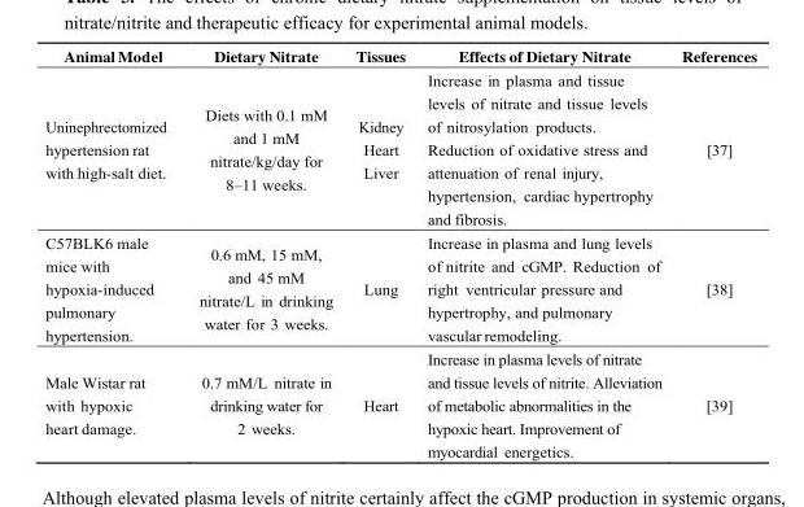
<table><thead><tr><td>Animal Model</td><td>Dietary Nitrate</td><td>Tissues</td><td>Effects of Dietary Nitrate</td><td>References</td></tr></thead><tbody><tr><td>Uninephrectomized hypertension rat with high-salt diet.</td><td>Diets with 0.1 mM and 1 mM nitrate/kg/day for 8–11 weeks.</td><td>Kidney Heart Liver</td><td>Increase in plasma and tissue levels of nitrate and tissue levels of nitrosylation products. Reduction of oxidative stress and attenuation of renal injury, hypertension, cardiac hypertrophy and fibrosis.</td><td>[37]</td></tr><tr><td>C57BLK6 male mice with hypoxia-induced pulmonary hypertension.</td><td>0.6 mM, 15 mM, and 45 mM nitrate/L in drinking water for 3 weeks.</td><td>Lung</td><td>Increase in plasma and lung levels of nitrite and cGMP. Reduction of right ventricular pressure and hypertrophy, and pulmonary vascular remodeling.</td><td>[38]</td></tr><tr><td>Male Wistar rat with hypoxic heart damage.</td><td>0.7 mM/L nitrate in drinking water for 2 weeks.</td><td>Heart</td><td>Increase in plasma levels of nitrate and tissue levels of nitrite. Alleviation of metabolic abnormalities in the hypoxic heart. Improvement of myocardial energetics.</td><td>[39]</td></tr></tbody></table>